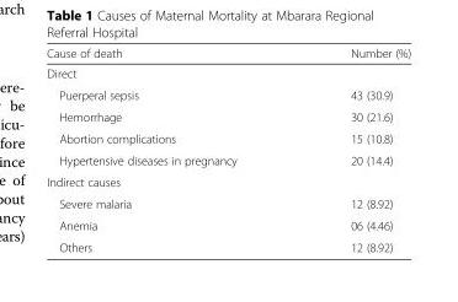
<table><thead><tr><td>Cause of death</td><td>Number (%)</td></tr></thead><tbody><tr><td colspan="2">Direct</td></tr><tr><td>Puerperal sepsis</td><td>43 (30.9)</td></tr><tr><td>Hemorrhage</td><td>30 (21.6)</td></tr><tr><td>Abortion complications</td><td>15 (10.8)</td></tr><tr><td>Hypertensive diseases in pregnancy</td><td>20 (14.4)</td></tr><tr><td colspan="2">Indirect causes</td></tr><tr><td>Severe malaria</td><td>12 (8.92)</td></tr><tr><td>Anemia</td><td>06 (4.46)</td></tr><tr><td>Others</td><td>12 (8.92)</td></tr></tbody></table>